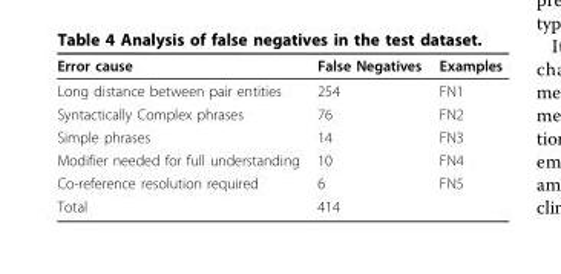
<table><thead><tr><td>Error cause</td><td>False Negatives</td><td>Examples</td></tr></thead><tbody><tr><td>Long distance between pair entities</td><td>254</td><td>FN1</td></tr><tr><td>Syntactically Complex phrases</td><td>76</td><td>FN2</td></tr><tr><td>Simple phrases</td><td>14</td><td>FN3</td></tr><tr><td>Modifier needed for full understanding</td><td>10</td><td>FN4</td></tr><tr><td>Co-reference resolution required</td><td>6</td><td>FN5</td></tr><tr><td>Total</td><td>414</td><td></td></tr></tbody></table>